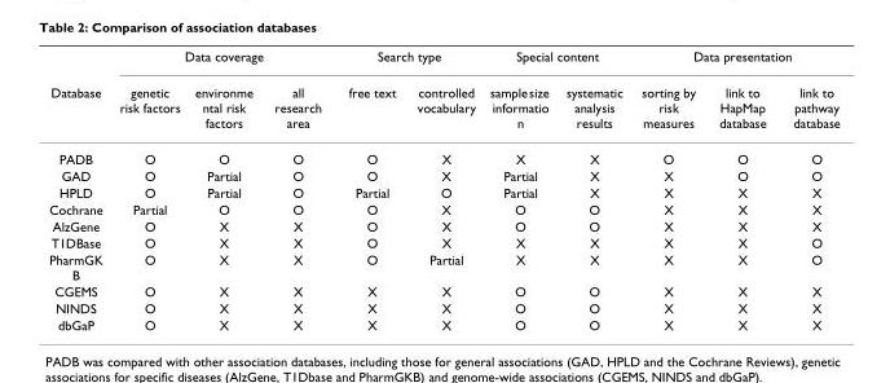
<table><thead><tr><td rowspan="2">Database</td><td colspan="3">Data coverage</td><td colspan="2">Search type</td><td colspan="2">Special content</td><td colspan="3">Data presentation</td></tr><tr><td>genetic risk factors</td><td>environme ntal risk factors</td><td>all research area</td><td>free text</td><td>controlled vocabulary</td><td>sample size informatio n</td><td>systematic analysis results</td><td>sorting by risk measures</td><td>link to HapMap database</td><td>link to pathway database</td></tr></thead><tbody><tr><td>PADB</td><td>O</td><td>O</td><td>O</td><td>O</td><td>X</td><td>X</td><td>X</td><td>O</td><td>O</td><td>O</td></tr><tr><td>GAD</td><td>O</td><td>Partial</td><td>O</td><td>O</td><td>X</td><td>Partial</td><td>X</td><td>X</td><td>O</td><td>O</td></tr><tr><td>HPLD</td><td>O</td><td>Partial</td><td>O</td><td>Partial</td><td>O</td><td>Partial</td><td>X</td><td>X</td><td>X</td><td>X</td></tr><tr><td>Cochrane</td><td>Partial</td><td>O</td><td>O</td><td>O</td><td>X</td><td>O</td><td>O</td><td>X</td><td>X</td><td>X</td></tr><tr><td>AlzGene</td><td>O</td><td>X</td><td>X</td><td>O</td><td>X</td><td>O</td><td>O</td><td>X</td><td>X</td><td>X</td></tr><tr><td>T1DBase</td><td>O</td><td>X</td><td>X</td><td>O</td><td>X</td><td>X</td><td>X</td><td>X</td><td>X</td><td>O</td></tr><tr><td>PharmGK B</td><td>O</td><td>X</td><td>X</td><td>O</td><td>Partial</td><td>X</td><td>X</td><td>X</td><td>X</td><td>O</td></tr><tr><td>CGEMS</td><td>O</td><td>X</td><td>X</td><td>X</td><td>X</td><td>O</td><td>O</td><td>X</td><td>X</td><td>X</td></tr><tr><td>NINDS</td><td>O</td><td>X</td><td>X</td><td>X</td><td>X</td><td>O</td><td>O</td><td>X</td><td>X</td><td>X</td></tr><tr><td>dbGaP</td><td>O</td><td>X</td><td>X</td><td>X</td><td>X</td><td>O</td><td>O</td><td>X</td><td>X</td><td>X</td></tr></tbody></table>